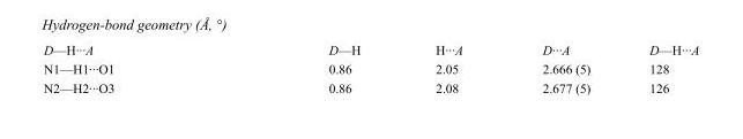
<table><tbody><tr><td>D—H···A</td><td>D—H</td><td>H···A</td><td>D···A</td><td>D—H···A</td></tr><tr><td>N1—H1···O1</td><td>0.86</td><td>2.05</td><td>2.666 (5)</td><td>128</td></tr><tr><td>N2—H2···O3</td><td>0.86</td><td>2.08</td><td>2.677 (5)</td><td>126</td></tr></tbody></table>